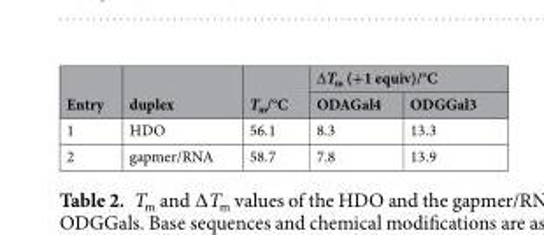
<table><thead><tr><td rowspan="2">Entry</td><td rowspan="2">duplex</td><td rowspan="2">T<sub>m</sub>/°C</td><td colspan="2">∆T<sub>m</sub> (+1 equiv)/°C</td></tr><tr><td>ODAGal4</td><td>ODGGal3</td></tr></thead><tbody><tr><td>1</td><td>HDO</td><td>56.1</td><td>8.3</td><td>13.3</td></tr><tr><td>2</td><td>gapmer/RNA</td><td>58.7</td><td>7.8</td><td>13.9</td></tr></tbody></table>